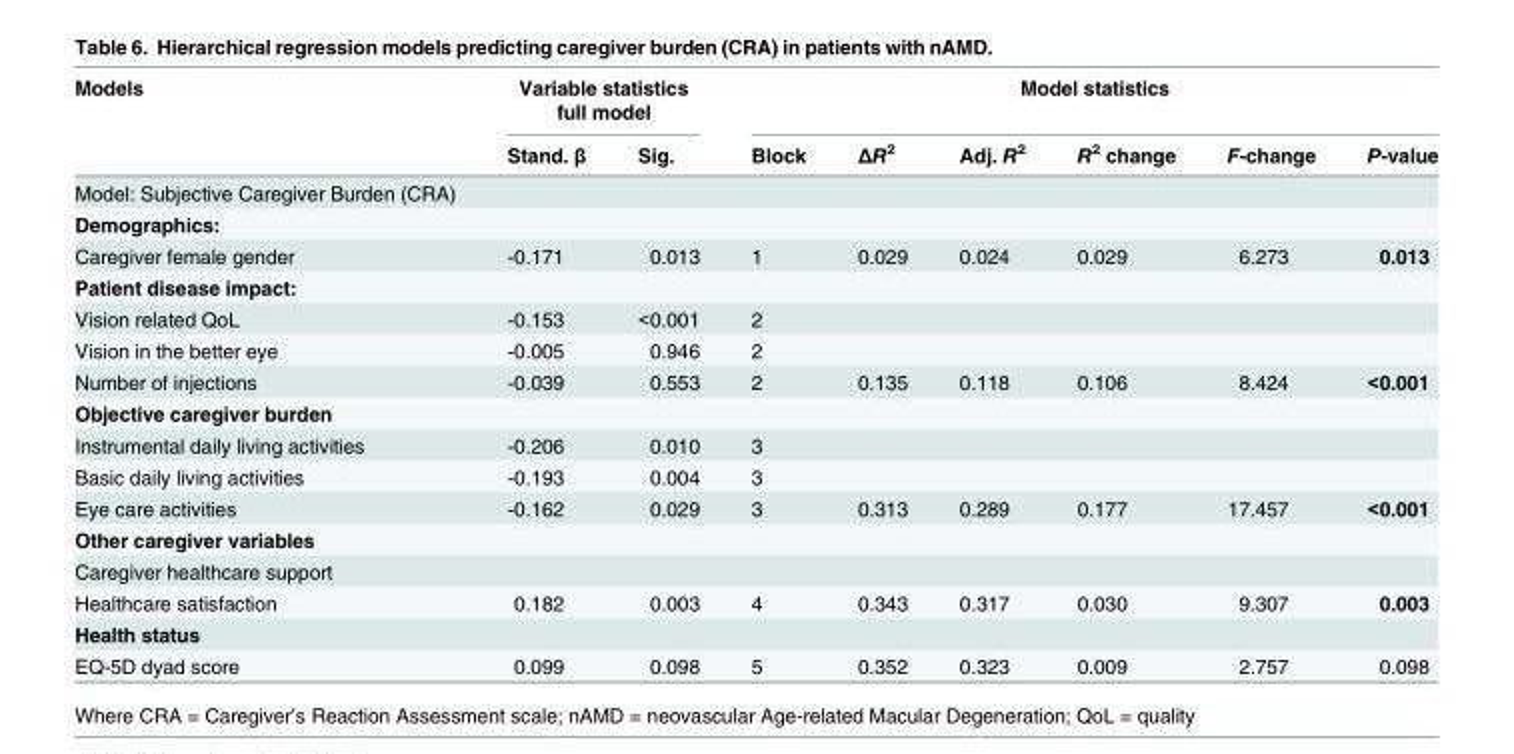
<table><thead><tr><td rowspan="2">Models</td><td colspan="2">Variable statistics full model</td><td colspan="6">Model statistics</td></tr><tr><td>Stand. β</td><td>Sig.</td><td>Block</td><td>ΔR<sup>2</sup></td><td>Adj. R<sup>2</sup></td><td>R<sup>2</sup> change</td><td>F-change</td><td>P-value</td></tr></thead><tbody><tr><td colspan="9">Model: Subjective Caregiver Burden (CRA)</td></tr><tr><td colspan="9">Demographics:</td></tr><tr><td>Caregiver female gender</td><td>-0.171</td><td>0.013</td><td>1</td><td>0.029</td><td>0.024</td><td>0.029</td><td>6.273</td><td>0.013</td></tr><tr><td colspan="9">Patient disease impact:</td></tr><tr><td>Vision related QoL</td><td>-0.153</td><td>&lt;0.001</td><td>2</td><td></td><td></td><td></td><td></td><td></td></tr><tr><td>Vision in the better eye</td><td>-0.005</td><td>0.946</td><td>2</td><td></td><td></td><td></td><td></td><td></td></tr><tr><td>Number of injections</td><td>-0.039</td><td>0.553</td><td>2</td><td>0.135</td><td>0.118</td><td>0.106</td><td>8.424</td><td>&lt;0.001</td></tr><tr><td colspan="9">Objective caregiver burden</td></tr><tr><td>Instrumental daily living activities</td><td>-0.206</td><td>0.010</td><td>3</td><td></td><td></td><td></td><td></td><td></td></tr><tr><td>Basic daily living activities</td><td>-0.193</td><td>0.004</td><td>3</td><td></td><td></td><td></td><td></td><td></td></tr><tr><td>Eye care activities</td><td>-0.162</td><td>0.029</td><td>3</td><td>0.313</td><td>0.289</td><td>0.177</td><td>17.457</td><td>&lt;0.001</td></tr><tr><td colspan="9">Other caregiver variables</td></tr><tr><td colspan="9">Caregiver healthcare support</td></tr><tr><td>Healthcare satisfaction</td><td>0.182</td><td>0.003</td><td>4</td><td>0.343</td><td>0.317</td><td>0.030</td><td>9.307</td><td>0.003</td></tr><tr><td colspan="9">Health status</td></tr><tr><td>EQ-5D dyad score</td><td>0.099</td><td>0.098</td><td>5</td><td>0.352</td><td>0.323</td><td>0.009</td><td>2.757</td><td>0.098</td></tr></tbody></table>